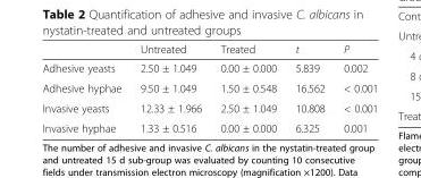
<table><thead><tr><td></td><td>Untreated</td><td>Treated</td><td>t</td><td>P</td></tr></thead><tbody><tr><td>Adhesive yeasts</td><td>2.50 ± 1.049</td><td>0.00 ± 0.000</td><td>5.839</td><td>0.002</td></tr><tr><td>Adhesive hyphae</td><td>9.50 ± 1.049</td><td>1.50 ± 0.548</td><td>16.562</td><td>&lt; 0.001</td></tr><tr><td>Invasive yeasts</td><td>12.33 ± 1.966</td><td>2.50 ± 1.049</td><td>10.808</td><td>&lt; 0.001</td></tr><tr><td>Invasive hyphae</td><td>1.33 ± 0.516</td><td>0.00 ± 0.000</td><td>6.325</td><td>0.001</td></tr></tbody></table>